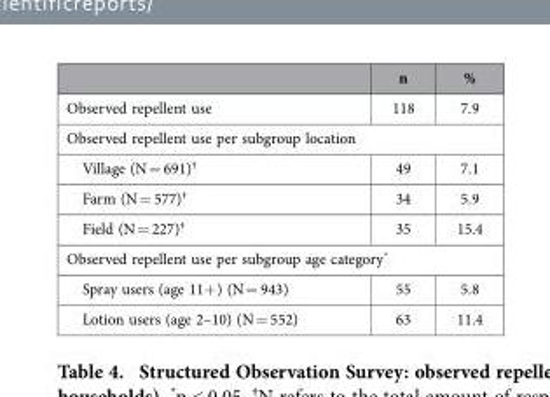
<table><thead><tr><td></td><td>n</td><td>%</td></tr></thead><tbody><tr><td>Observed repellent use</td><td>118</td><td>7.9</td></tr><tr><td colspan="3">Observed repellent use per subgroup location</td></tr><tr><td>Village (N = 691)†</td><td>49</td><td>7.1</td></tr><tr><td>Farm (N = 577)†</td><td>34</td><td>5.9</td></tr><tr><td>Field (N = 227)<sup>†</sup></td><td>35</td><td>15.4</td></tr><tr><td colspan="3">Observed repellent use per subgroup age category*</td></tr><tr><td>Spray users (age 11+ ) (N = 943)</td><td>55</td><td>5.8</td></tr><tr><td>Lotion users (age 2–10) (N = 552)</td><td>63</td><td>11.4</td></tr></tbody></table>